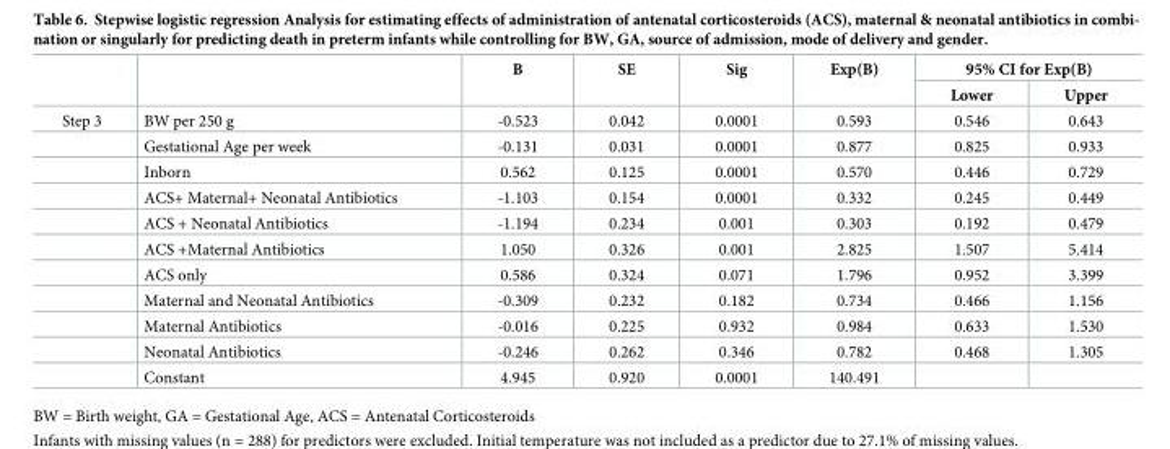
<table><thead><tr><td rowspan="2"></td><td rowspan="2"></td><td rowspan="2">B</td><td rowspan="2">SE</td><td rowspan="2">Sig</td><td rowspan="2">Exp(B)</td><td colspan="2">95% CI for Exp(B)</td></tr><tr><td>Lower</td><td>Upper</td></tr></thead><tbody><tr><td rowspan="11">Step 3</td><td>BW per 250 g</td><td>-0.523</td><td>0.042</td><td>0.0001</td><td>0.593</td><td>0.546</td><td>0.643</td></tr><tr><td>Gestational Age per week</td><td>-0.131</td><td>0.031</td><td>0.0001</td><td>0.877</td><td>0.825</td><td>0.933</td></tr><tr><td>Inborn</td><td>0.562</td><td>0.125</td><td>0.0001</td><td>0.570</td><td>0.446</td><td>0.729</td></tr><tr><td>ACS+ Maternal+ Neonatal Antibiotics</td><td>-1.103</td><td>0.154</td><td>0.0001</td><td>0.332</td><td>0.245</td><td>0.449</td></tr><tr><td>ACS + Neonatal Antibiotics</td><td>-1.194</td><td>0.234</td><td>0.001</td><td>0.303</td><td>0.192</td><td>0.479</td></tr><tr><td>ACS +Maternal Antibiotics</td><td>1.050</td><td>0.326</td><td>0.001</td><td>2.825</td><td>1.507</td><td>5.414</td></tr><tr><td>ACS only</td><td>0.586</td><td>0.324</td><td>0.071</td><td>1.796</td><td>0.952</td><td>3.399</td></tr><tr><td>Maternal and Neonatal Antibiotics</td><td>-0.309</td><td>0.232</td><td>0.182</td><td>0.734</td><td>0.466</td><td>1.156</td></tr><tr><td>Maternal Antibiotics</td><td>-0.016</td><td>0.225</td><td>0.932</td><td>0.984</td><td>0.633</td><td>1.530</td></tr><tr><td>Neonatal Antibiotics</td><td>-0.246</td><td>0.262</td><td>0.346</td><td>0.782</td><td>0.468</td><td>1.305</td></tr><tr><td>Constant</td><td>4.945</td><td>0.920</td><td>0.0001</td><td>140.491</td><td></td><td></td></tr></tbody></table>